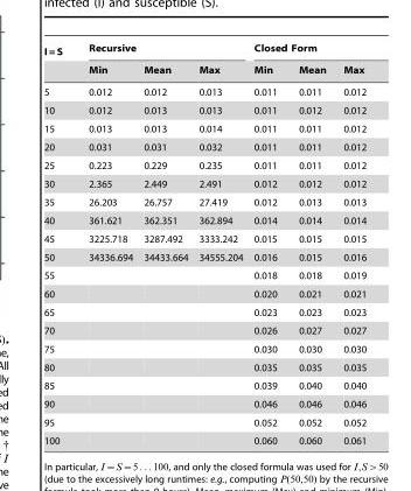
<table><thead><tr><td rowspan="2">I = S</td><td colspan="3">Recursive</td><td colspan="3">Closed Form</td></tr><tr><td>Min</td><td>Mean</td><td>Max</td><td>Min</td><td>Mean</td><td>Max</td></tr></thead><tbody><tr><td>5</td><td>0.012</td><td>0.012</td><td>0.013</td><td>0.011</td><td>0.011</td><td>0.012</td></tr><tr><td>10</td><td>0.012</td><td>0.013</td><td>0.013</td><td>0.011</td><td>0.012</td><td>0.012</td></tr><tr><td>15</td><td>0.013</td><td>0.013</td><td>0.014</td><td>0.011</td><td>0.011</td><td>0.012</td></tr><tr><td>20</td><td>0.031</td><td>0.031</td><td>0.032</td><td>0.011</td><td>0.011</td><td>0.012</td></tr><tr><td>25</td><td>0.223</td><td>0.229</td><td>0.235</td><td>0.011</td><td>0.011</td><td>0.012</td></tr><tr><td>30</td><td>2.365</td><td>2.449</td><td>2.491</td><td>0.012</td><td>0.012</td><td>0.012</td></tr><tr><td>35</td><td>26.203</td><td>26.757</td><td>27.419</td><td>0.012</td><td>0.013</td><td>0.013</td></tr><tr><td>40</td><td>361.621</td><td>362.351</td><td>362.894</td><td>0.014</td><td>0.014</td><td>0.014</td></tr><tr><td>45</td><td>3225.718</td><td>3287.492</td><td>3333.242</td><td>0.015</td><td>0.015</td><td>0.015</td></tr><tr><td>50</td><td>34336.694</td><td>34433.664</td><td>34555.204</td><td>0.016</td><td>0.015</td><td>0.016</td></tr><tr><td>55</td><td></td><td></td><td></td><td>0.018</td><td>0.018</td><td>0.019</td></tr><tr><td>60</td><td></td><td></td><td></td><td>0.020</td><td>0.021</td><td>0.021</td></tr><tr><td>65</td><td></td><td></td><td></td><td>0.023</td><td>0.023</td><td>0.023</td></tr><tr><td>70</td><td></td><td></td><td></td><td>0.026</td><td>0.027</td><td>0.027</td></tr><tr><td>75</td><td></td><td></td><td></td><td>0.030</td><td>0.030</td><td>0.030</td></tr><tr><td>80</td><td></td><td></td><td></td><td>0.035</td><td>0.035</td><td>0.035</td></tr><tr><td>85</td><td></td><td></td><td></td><td>0.039</td><td>0.040</td><td>0.040</td></tr><tr><td>90</td><td></td><td></td><td></td><td>0.046</td><td>0.046</td><td>0.046</td></tr><tr><td>95</td><td></td><td></td><td></td><td>0.052</td><td>0.052</td><td>0.052</td></tr><tr><td>100</td><td></td><td></td><td></td><td>0.060</td><td>0.060</td><td>0.061</td></tr></tbody></table>